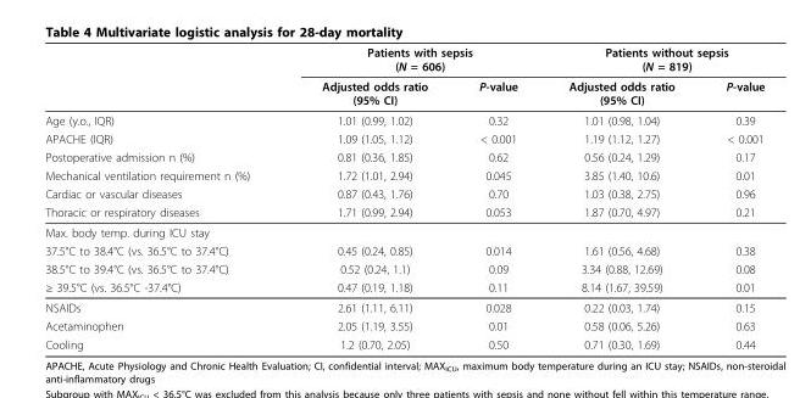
<table><thead><tr><td rowspan="2"></td><td colspan="2">Patients with sepsis (N = 606)</td><td colspan="2">Patients without sepsis (N = 819)</td></tr><tr><td>Adjusted odds ratio (95% CI)</td><td>P-value</td><td>Adjusted odds ratio (95% CI)</td><td>P-value</td></tr></thead><tbody><tr><td>Age (y.o., IQR)</td><td>1.01 (0.99, 1.02)</td><td>0.32</td><td>1.01 (0.98, 1.04)</td><td>0.39</td></tr><tr><td>APACHE (IQR)</td><td>1.09 (1.05, 1.12)</td><td>&lt; 0.001</td><td>1.19 (1.12, 1.27)</td><td>&lt; 0.001</td></tr><tr><td>Postoperative admission n (%)</td><td>0.81 (0.36, 1.85)</td><td>0.62</td><td>0.56 (0.24, 1.29)</td><td>0.17</td></tr><tr><td>Mechanical ventilation requirement n (%)</td><td>1.72 (1.01, 2.94)</td><td>0.045</td><td>3.85 (1.40, 10.6)</td><td>0.01</td></tr><tr><td>Cardiac or vascular diseases</td><td>0.87 (0.43, 1.76)</td><td>0.70</td><td>1.03 (0.38, 2.75)</td><td>0.96</td></tr><tr><td>Thoracic or respiratory diseases</td><td>1.71 (0.99, 2.94)</td><td>0.053</td><td>1.87 (0.70, 4.97)</td><td>0.21</td></tr><tr><td colspan="5">Max. body temp. during ICU stay</td></tr><tr><td>37.5°C to 38.4°C (vs. 36.5°C to 37.4°C)</td><td>0.45 (0.24, 0.85)</td><td>0.014</td><td>1.61 (0.56, 4.68)</td><td>0.38</td></tr><tr><td>38.5°C to 39.4°C (vs. 36.5°C to 37.4°C)</td><td>0.52 (0.24, 1.1)</td><td>0.09</td><td>3.34 (0.88, 12.69)</td><td>0.08</td></tr><tr><td>≥ 39.5°C (vs. 36.5°C -37.4°C)</td><td>0.47 (0.19, 1.18)</td><td>0.11</td><td>8.14 (1.67, 39.59)</td><td>0.01</td></tr><tr><td>NSAIDs</td><td>2.61 (1.11, 6.11)</td><td>0.028</td><td>0.22 (0.03, 1.74)</td><td>0.15</td></tr><tr><td>Acetaminophen</td><td>2.05 (1.19, 3.55)</td><td>0.01</td><td>0.58 (0.06, 5.26)</td><td>0.63</td></tr><tr><td>Cooling</td><td>1.2 (0.70, 2.05)</td><td>0.50</td><td>0.71 (0.30, 1.69)</td><td>0.44</td></tr></tbody></table>